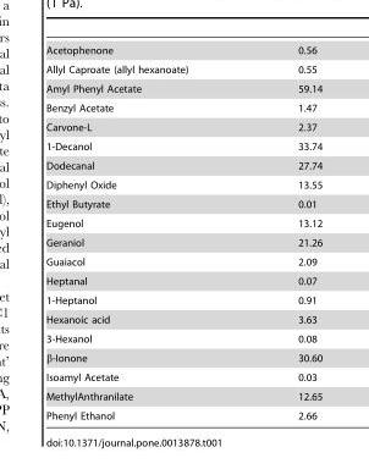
<table><tbody><tr><td>Acetophenone</td><td>0.56</td></tr><tr><td>Allyl Caproate (allyl hexanoate)</td><td>0.55</td></tr><tr><td>Amyl Phenyl Acetate</td><td>59.14</td></tr><tr><td>Benzyl Acetate</td><td>1.47</td></tr><tr><td>Carvone-L</td><td>2.37</td></tr><tr><td>1-Decanol</td><td>33.74</td></tr><tr><td>Dodecanal</td><td>27.74</td></tr><tr><td>Diphenyl Oxide</td><td>13.55</td></tr><tr><td>Ethyl Butyrate</td><td>0.01</td></tr><tr><td>Eugenol</td><td>13.12</td></tr><tr><td>Geraniol</td><td>21.26</td></tr><tr><td>Guaiacol</td><td>2.09</td></tr><tr><td>Heptanal</td><td>0.07</td></tr><tr><td>1-Heptanol</td><td>0.91</td></tr><tr><td>Hexanoic acid</td><td>3.63</td></tr><tr><td>3-Hexanol</td><td>0.08</td></tr><tr><td>β-Ionone</td><td>30.60</td></tr><tr><td>Isoamyl Acetate</td><td>0.03</td></tr><tr><td>MethylAnthranilate</td><td>12.65</td></tr><tr><td>Phenyl Ethanol</td><td>2.66</td></tr></tbody></table>